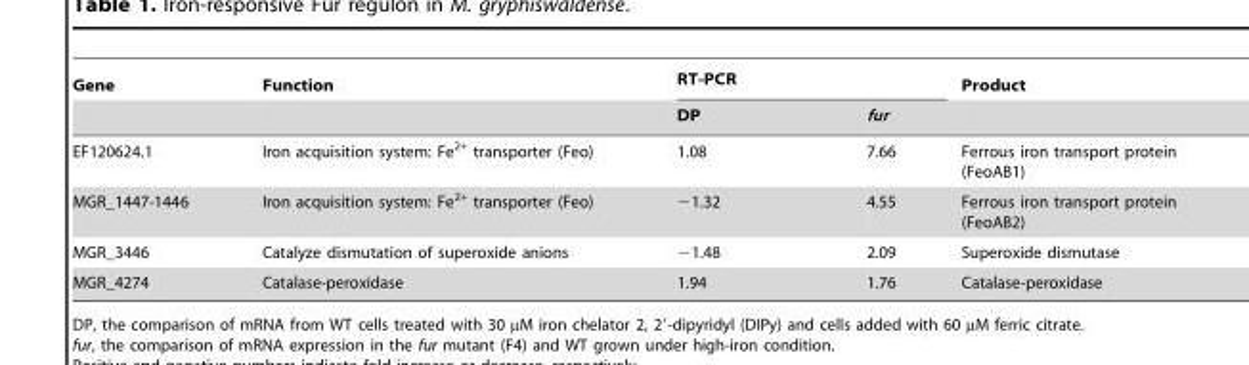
<table><thead><tr><td rowspan="2">Gene</td><td rowspan="2">Function</td><td colspan="2">RT-PCR</td><td rowspan="2">Product</td></tr><tr><td>DP</td><td>fur</td></tr></thead><tbody><tr><td>EF120624.1</td><td>Iron acquisition system: Fe<sup>2+</sup> transporter (Feo)</td><td>1.08</td><td>7.66</td><td>Ferrous iron transport protein (FeoAB1)</td></tr><tr><td>MGR_1447-1446</td><td>Iron acquisition system: Fe<sup>2+</sup> transporter (Feo)</td><td>−1.32</td><td>4.55</td><td>Ferrous iron transport protein (FeoAB2)</td></tr><tr><td>MGR_3446</td><td>Catalyze dismutation of superoxide anions</td><td>−1.48</td><td>2.09</td><td>Superoxide dismutase</td></tr><tr><td>MGR_4274</td><td>Catalase-peroxidase</td><td>1.94</td><td>1.76</td><td>Catalase-peroxidase</td></tr></tbody></table>